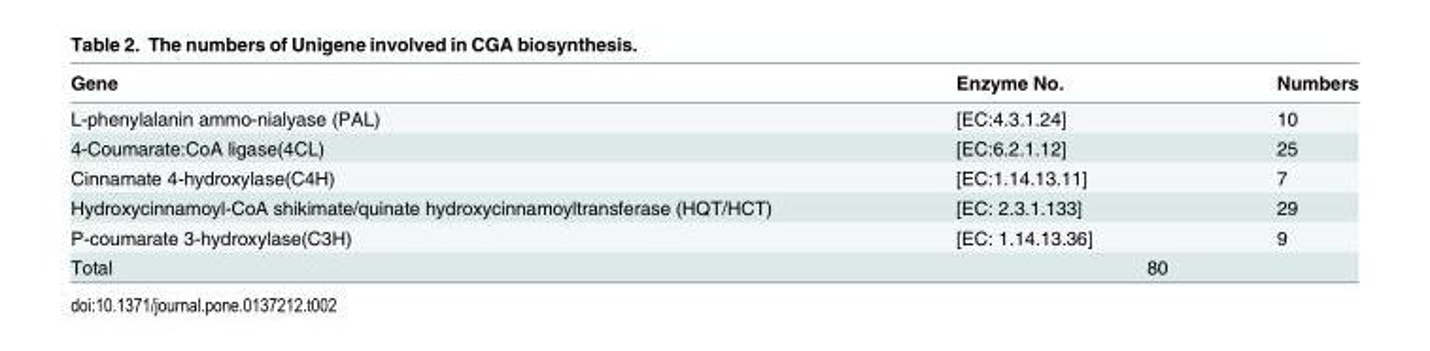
<table><thead><tr><td>Gene</td><td>Enzyme No.</td><td>Numbers</td></tr></thead><tbody><tr><td>L-phenylalanin ammo-nialyase (PAL)</td><td>[EC:4.3.1.24]</td><td>10</td></tr><tr><td>4-Coumarate:CoA ligase(4CL)</td><td>[EC:6.2.1.12]</td><td>25</td></tr><tr><td>Cinnamate 4-hydroxylase(C4H)</td><td>[EC:1.14.13.11]</td><td>7</td></tr><tr><td>Hydroxycinnamoyl-CoA shikimate/quinate hydroxycinnamoyltransferase (HQT/HCT)</td><td>[EC: 2.3.1.133]</td><td>29</td></tr><tr><td>P-coumarate 3-hydroxylase(C3H)</td><td>[EC: 1.14.13.36]</td><td>9</td></tr><tr><td>Total</td><td colspan="2">80</td></tr></tbody></table>